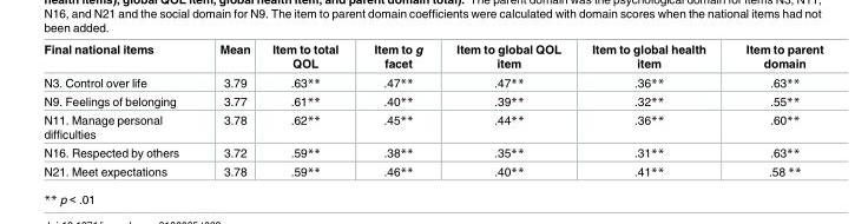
<table><thead><tr><td>Final national items</td><td>Mean</td><td>Item to total QOL</td><td>Item to g facet</td><td>Item to global QOL item</td><td>Item to global health item</td><td>Item to parent domain</td></tr></thead><tbody><tr><td>N3. Control over life</td><td>3.79</td><td>.63**</td><td>.47**</td><td>.47**</td><td>.36**</td><td>.63**</td></tr><tr><td>N9. Feelings of belonging</td><td>3.77</td><td>.61**</td><td>.40**</td><td>.39**</td><td>.32**</td><td>.55**</td></tr><tr><td>N11. Manage personal difficulties</td><td>3.78</td><td>.62**</td><td>.45**</td><td>.44**</td><td>.36**</td><td>.60**</td></tr><tr><td>N16. Respected by others</td><td>3.72</td><td>.59**</td><td>.38**</td><td>.35**</td><td>.31**</td><td>.63**</td></tr><tr><td>N21. Meet expectations</td><td>3.78</td><td>.59**</td><td>.46**</td><td>.40**</td><td>.41**</td><td>.58 **</td></tr></tbody></table>